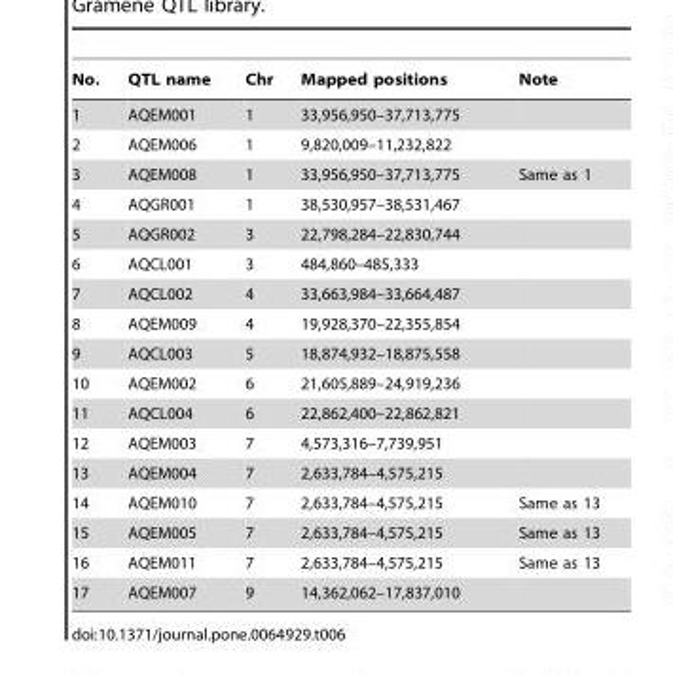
<table><thead><tr><td>No.</td><td>QTL name</td><td>Chr</td><td>Mapped positions</td><td>Note</td></tr></thead><tbody><tr><td>1</td><td>AQEM001</td><td>1</td><td>33,956,950–37,713,775</td><td></td></tr><tr><td>2</td><td>AQEM006</td><td>1</td><td>9,820,009–11,232,822</td><td></td></tr><tr><td>3</td><td>AQEM008</td><td>1</td><td>33,956,950–37,713,775</td><td>Same as 1</td></tr><tr><td>4</td><td>AQGR001</td><td>1</td><td>38,530,957–38,531,467</td><td></td></tr><tr><td>5</td><td>AQGR002</td><td>3</td><td>22,798,284–22,830,744</td><td></td></tr><tr><td>6</td><td>AQCL001</td><td>3</td><td>484,860–485,333</td><td></td></tr><tr><td>7</td><td>AQCL002</td><td>4</td><td>33,663,984–33,664,487</td><td></td></tr><tr><td>8</td><td>AQEM009</td><td>4</td><td>19,928,370–22,355,854</td><td></td></tr><tr><td>9</td><td>AQCL003</td><td>5</td><td>18,874,932–18,875,558</td><td></td></tr><tr><td>10</td><td>AQEM002</td><td>6</td><td>21,605,889–24,919,236</td><td></td></tr><tr><td>11</td><td>AQCL004</td><td>6</td><td>22,862,400–22,862,821</td><td></td></tr><tr><td>12</td><td>AQEM003</td><td>7</td><td>4,573,316–7,739,951</td><td></td></tr><tr><td>13</td><td>AQEM004</td><td>7</td><td>2,633,784–4,575,215</td><td></td></tr><tr><td>14</td><td>AQEM010</td><td>7</td><td>2,633,784–4,575,215</td><td>Same as 13</td></tr><tr><td>15</td><td>AQEM005</td><td>7</td><td>2,633,784–4,575,215</td><td>Same as 13</td></tr><tr><td>16</td><td>AQEM011</td><td>7</td><td>2,633,784–4,575,215</td><td>Same as 13</td></tr><tr><td>17</td><td>AQEM007</td><td>9</td><td>14,362,062–17,837,010</td><td></td></tr></tbody></table>